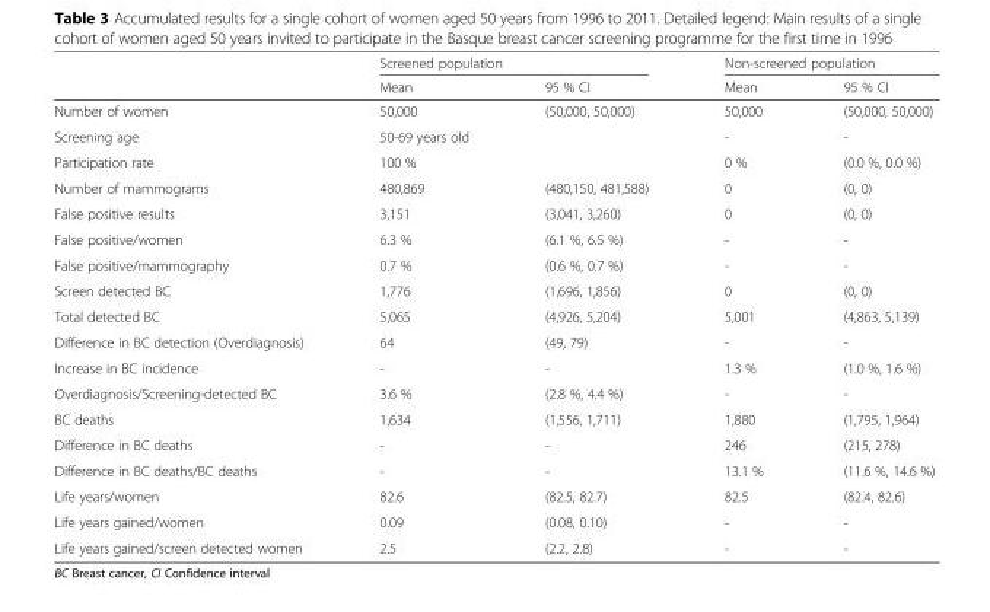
<table><thead><tr><td rowspan="2"></td><td colspan="2">Screened population</td><td colspan="2">Non-screened population</td></tr><tr><td>Mean</td><td>95 % CI</td><td>Mean</td><td>95 % CI</td></tr></thead><tbody><tr><td>Number of women</td><td>50,000</td><td>(50,000, 50,000)</td><td>50,000</td><td>(50,000, 50,000)</td></tr><tr><td>Screening age</td><td>50-69 years old</td><td></td><td>-</td><td>-</td></tr><tr><td>Participation rate</td><td>100 %</td><td></td><td>0 %</td><td>(0.0 %, 0.0 %)</td></tr><tr><td>Number of mammograms</td><td>480,869</td><td>(480,150, 481,588)</td><td>0</td><td>(0, 0)</td></tr><tr><td>False positive results</td><td>3,151</td><td>(3,041, 3,260)</td><td>0</td><td>(0, 0)</td></tr><tr><td>False positive/women</td><td>6.3 %</td><td>(6.1 %, 6.5 %)</td><td>-</td><td>-</td></tr><tr><td>False positive/mammography</td><td>0.7 %</td><td>(0.6 %, 0.7 %)</td><td>-</td><td>-</td></tr><tr><td>Screen detected BC</td><td>1,776</td><td>(1,696, 1,856)</td><td>0</td><td>(0, 0)</td></tr><tr><td>Total detected BC</td><td>5,065</td><td>(4,926, 5,204)</td><td>5,001</td><td>(4,863, 5,139)</td></tr><tr><td>Difference in BC detection (Overdiagnosis)</td><td>64</td><td>(49, 79)</td><td>-</td><td>-</td></tr><tr><td>Increase in BC incidence</td><td>-</td><td>-</td><td>1.3 %</td><td>(1.0 %, 1.6 %)</td></tr><tr><td>Overdiagnosis/Screening-detected BC</td><td>3.6 %</td><td>(2.8 %, 4.4 %)</td><td>-</td><td>-</td></tr><tr><td>BC deaths</td><td>1,634</td><td>(1,556, 1,711)</td><td>1,880</td><td>(1,795, 1,964)</td></tr><tr><td>Difference in BC deaths</td><td>-</td><td>-</td><td>246</td><td>(215, 278)</td></tr><tr><td>Difference in BC deaths/BC deaths</td><td>-</td><td>-</td><td>13.1 %</td><td>(11.6 %, 14.6 %)</td></tr><tr><td>Life years/women</td><td>82.6</td><td>(82.5, 82.7)</td><td>82.5</td><td>(82.4, 82.6)</td></tr><tr><td>Life years gained/women</td><td>0.09</td><td>(0.08, 0.10)</td><td>-</td><td>-</td></tr><tr><td>Life years gained/screen detected women</td><td>2.5</td><td>(2.2, 2.8)</td><td>-</td><td>-</td></tr></tbody></table>